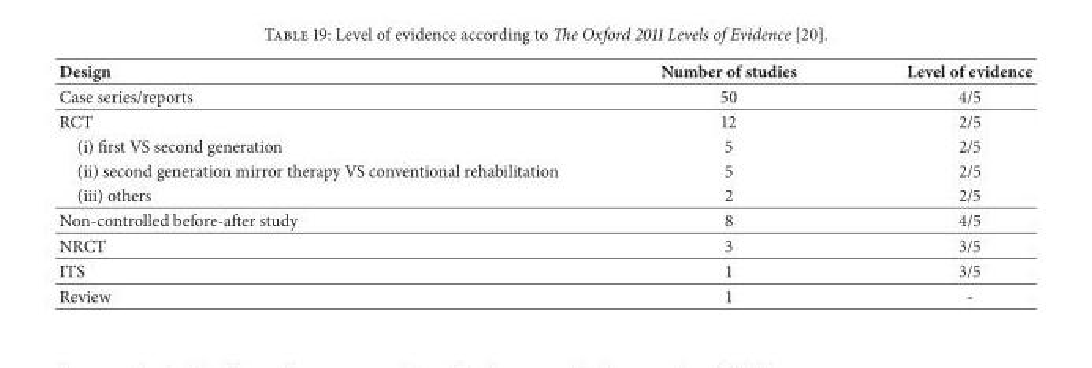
<table><thead><tr><td>Design</td><td>Number of studies</td><td>Level of evidence</td></tr></thead><tbody><tr><td>Case series/reports</td><td>50</td><td>4/5</td></tr><tr><td>RCT</td><td>12</td><td>2/5</td></tr><tr><td>(i) first VS second generation</td><td>5</td><td>2/5</td></tr><tr><td>(ii) second generation mirror therapy VS conventional rehabilitation</td><td>5</td><td>2/5</td></tr><tr><td>(iii) others</td><td>2</td><td>2/5</td></tr><tr><td>Non-controlled before-after study</td><td>8</td><td>4/5</td></tr><tr><td>NRCT</td><td>3</td><td>3/5</td></tr><tr><td>ITS</td><td>1</td><td>3/5</td></tr><tr><td>Review</td><td>1</td><td>-</td></tr></tbody></table>